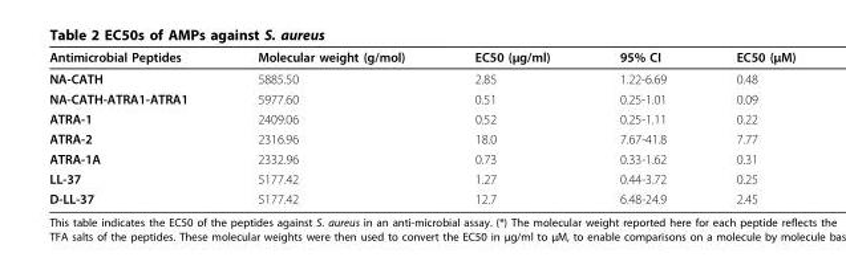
<table><thead><tr><td>Antimicrobial Peptides</td><td>Molecular weight (g/mol)</td><td>EC50 (μg/ml)</td><td>95% CI</td><td>EC50 (μM)</td></tr></thead><tbody><tr><td>NA-CATH</td><td>5885.50</td><td>2.85</td><td>1.22-6.69</td><td>0.48</td></tr><tr><td>NA-CATH-ATRA1-ATRA1</td><td>5977.60</td><td>0.51</td><td>0.25-1.01</td><td>0.09</td></tr><tr><td>ATRA-1</td><td>2409.06</td><td>0.52</td><td>0.25-1.11</td><td>0.22</td></tr><tr><td>ATRA-2</td><td>2316.96</td><td>18.0</td><td>7.67-41.8</td><td>7.77</td></tr><tr><td>ATRA-1A</td><td>2332.96</td><td>0.73</td><td>0.33-1.62</td><td>0.31</td></tr><tr><td>LL-37</td><td>5177.42</td><td>1.27</td><td>0.44-3.72</td><td>0.25</td></tr><tr><td>D-LL-37</td><td>5177.42</td><td>12.7</td><td>6.48-24.9</td><td>2.45</td></tr></tbody></table>